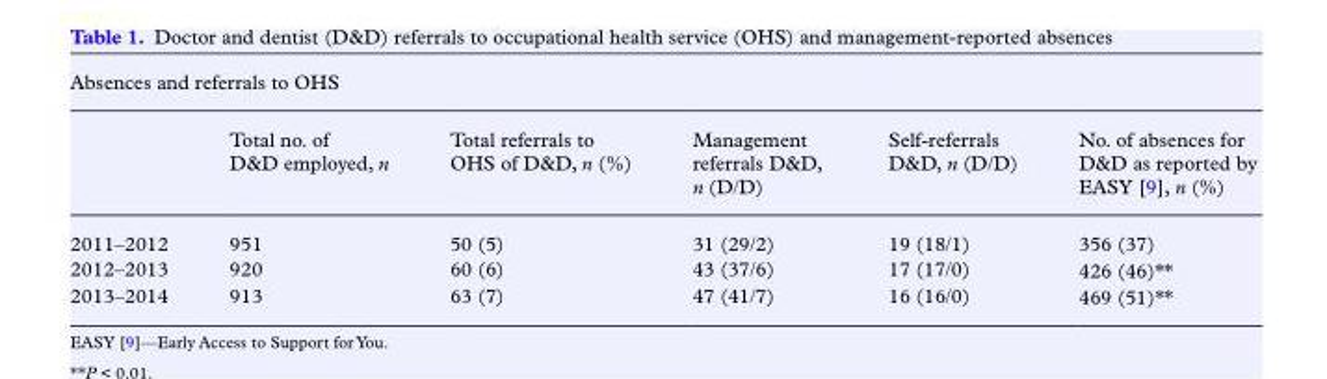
<table><thead><tr><td colspan="6">Absences and referrals to OHS</td></tr><tr><td></td><td>Total no. of D&amp;D employed, n</td><td>Total referrals to OHS of D&amp;D, n (%)</td><td>Management referrals D&amp;D, n (D/D)</td><td>Self-referrals D&amp;D, n (D/D)</td><td>No. of absences for D&amp;D as reported by EASY [9], n (%)</td></tr></thead><tbody><tr><td>2011–2012</td><td>951</td><td>50 (5)</td><td>31 (29/2)</td><td>19 (18/1)</td><td>356 (37)</td></tr><tr><td>2012–2013</td><td>920</td><td>60 (6)</td><td>43 (37/6)</td><td>17 (17/0)</td><td>426 (46)**</td></tr><tr><td>2013–2014</td><td>913</td><td>63 (7)</td><td>47 (41/7)</td><td>16 (16/0)</td><td>469 (51)**</td></tr></tbody></table>